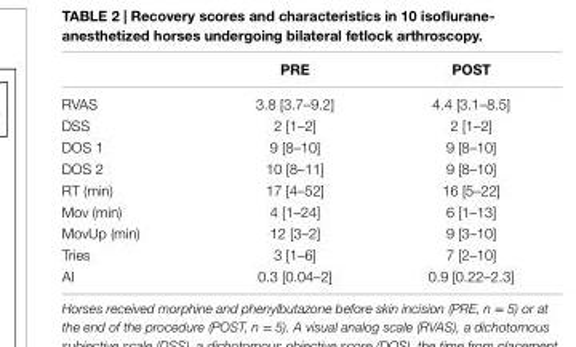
<table><thead><tr><td></td><td>Pre</td><td>POsT</td></tr></thead><tbody><tr><td>RVAS</td><td>3.8 [3.7–9.2]</td><td>4.4 [3.1–8.5]</td></tr><tr><td>DSS</td><td>2 [1–2]</td><td>2 [1–2]</td></tr><tr><td>DOS 1</td><td>9 [8–10]</td><td>9 [8–10]</td></tr><tr><td>DOS 2</td><td>10 [8–11]</td><td>9 [8–10]</td></tr><tr><td>RT (min)</td><td>17 [4–52]</td><td>16 [5–22]</td></tr><tr><td>Mov (min)</td><td>4 [1–24]</td><td>6 [1–13]</td></tr><tr><td>MovUp (min)</td><td>12 [3–2]</td><td>9 [3–10]</td></tr><tr><td>Tries</td><td>3 [1–6]</td><td>7 [2–10]</td></tr><tr><td>AI</td><td>0.3 [0.04–2]</td><td>0.9 [0.22–2.3]</td></tr></tbody></table>